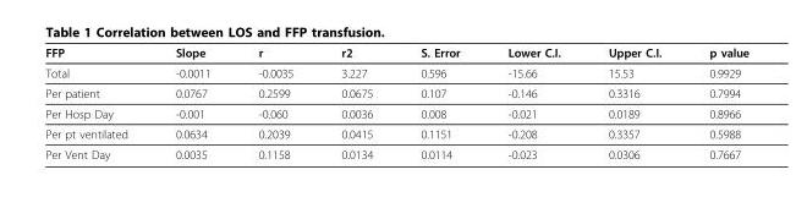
<table><thead><tr><td>FFP</td><td>Slope</td><td>r</td><td>r2</td><td>S. Error</td><td>Lower C.I.</td><td>Upper C.I.</td><td>p value</td></tr></thead><tbody><tr><td>Total</td><td>-0.0011</td><td>-0.0035</td><td>3.227</td><td>0.596</td><td>-15.66</td><td>15.53</td><td>0.9929</td></tr><tr><td>Per patient</td><td>0.0767</td><td>0.2599</td><td>0.0675</td><td>0.107</td><td>-0.146</td><td>0.3316</td><td>0.7994</td></tr><tr><td>Per Hosp Day</td><td>-0.001</td><td>-0.060</td><td>0.0036</td><td>0.008</td><td>-0.021</td><td>0.0189</td><td>0.8966</td></tr><tr><td>Per pt ventilated</td><td>0.0634</td><td>0.2039</td><td>0.0415</td><td>0.1151</td><td>-0.208</td><td>0.3357</td><td>0.5988</td></tr><tr><td>Per Vent Day</td><td>0.0035</td><td>0.1158</td><td>0.0134</td><td>0.0114</td><td>-0.023</td><td>0.0306</td><td>0.7667</td></tr></tbody></table>